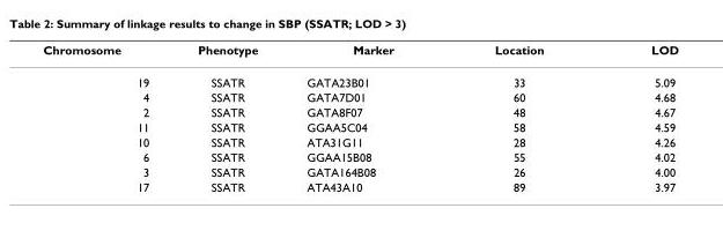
<table><thead><tr><td>Chromosome</td><td>Phenotype</td><td>Marker</td><td>Location</td><td>LOD</td></tr></thead><tbody><tr><td>19</td><td>SSATR</td><td>GATA23B01</td><td>33</td><td>5.09</td></tr><tr><td>4</td><td>SSATR</td><td>GATA7D01</td><td>60</td><td>4.68</td></tr><tr><td>2</td><td>SSATR</td><td>GATA8F07</td><td>48</td><td>4.67</td></tr><tr><td>11</td><td>SSATR</td><td>GGAA5C04</td><td>58</td><td>4.59</td></tr><tr><td>10</td><td>SSATR</td><td>ATA31G11</td><td>28</td><td>4.26</td></tr><tr><td>6</td><td>SSATR</td><td>GGAA15B08</td><td>55</td><td>4.02</td></tr><tr><td>3</td><td>SSATR</td><td>GATA164B08</td><td>26</td><td>4.00</td></tr><tr><td>17</td><td>SSATR</td><td>ATA43A10</td><td>89</td><td>3.97</td></tr></tbody></table>